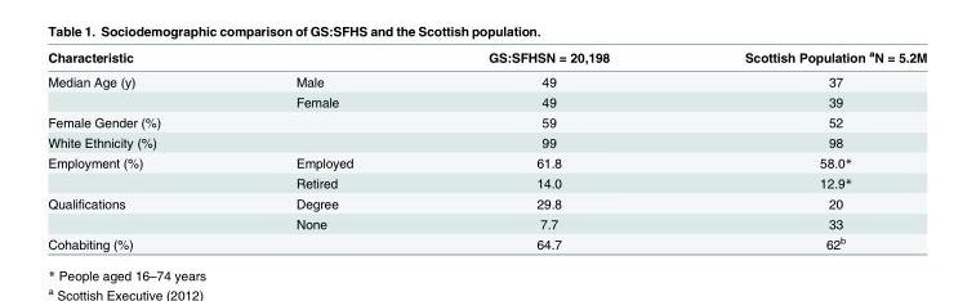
<table><thead><tr><td>Characteristic</td><td></td><td>GS:SFHSN = 20,198</td><td>Scottish Population <sup>a</sup>N = 5.2M</td></tr></thead><tbody><tr><td rowspan="2">Median Age (y)</td><td>Male</td><td>49</td><td>37</td></tr><tr><td>Female</td><td>49</td><td>39</td></tr><tr><td>Female Gender (%)</td><td></td><td>59</td><td>52</td></tr><tr><td>White Ethnicity (%)</td><td></td><td>99</td><td>98</td></tr><tr><td rowspan="2">Employment (%)</td><td>Employed</td><td>61.8</td><td>58.0*</td></tr><tr><td>Retired</td><td>14.0</td><td>12.9*</td></tr><tr><td rowspan="2">Qualifications</td><td>Degree</td><td>29.8</td><td>20</td></tr><tr><td>None</td><td>7.7</td><td>33</td></tr><tr><td>Cohabiting (%)</td><td></td><td>64.7</td><td>62<sup>b</sup></td></tr></tbody></table>